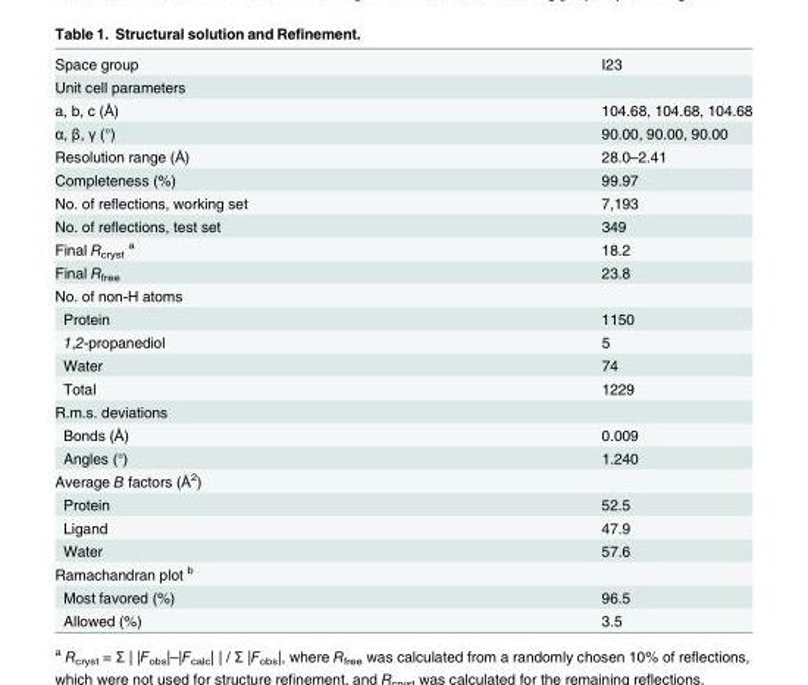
<table><tbody><tr><td>Space group</td><td>I23</td></tr><tr><td colspan="2">Unit cell parameters</td></tr><tr><td>a, b, c (Å)</td><td>104.68, 104.68, 104.68</td></tr><tr><td>α, β, γ (°)</td><td>90.00, 90.00, 90.00</td></tr><tr><td>Resolution range (Å)</td><td>28.0–2.41</td></tr><tr><td>Completeness (%)</td><td>99.97</td></tr><tr><td>No. of reflections, working set</td><td>7,193</td></tr><tr><td>No. of reflections, test set</td><td>349</td></tr><tr><td>Final R<sub>cryst</sub> <sup>a</sup></td><td>18.2</td></tr><tr><td>Final R<sub>free</sub></td><td>23.8</td></tr><tr><td colspan="2">No. of non-H atoms</td></tr><tr><td>Protein</td><td>1150</td></tr><tr><td>1,2-propanediol</td><td>5</td></tr><tr><td>Water</td><td>74</td></tr><tr><td>Total</td><td>1229</td></tr><tr><td colspan="2">R.m.s. deviations</td></tr><tr><td>Bonds (Å)</td><td>0.009</td></tr><tr><td>Angles (°)</td><td>1.240</td></tr><tr><td colspan="2">Average B factors (Å<sup>2</sup>)</td></tr><tr><td>Protein</td><td>52.5</td></tr><tr><td>Ligand</td><td>47.9</td></tr><tr><td>Water</td><td>57.6</td></tr><tr><td colspan="2">Ramachandran plot <sup>b</sup></td></tr><tr><td>Most favored (%)</td><td>96.5</td></tr><tr><td>Allowed (%)</td><td>3.5</td></tr></tbody></table>